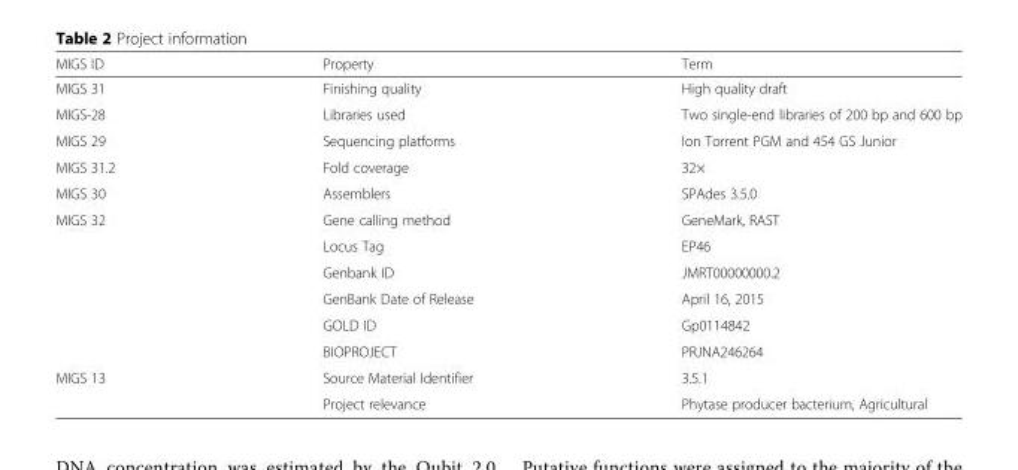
<table><thead><tr><td>MIGS ID</td><td>Property</td><td>Term</td></tr></thead><tbody><tr><td>MIGS 31</td><td>Finishing quality</td><td>High quality draft</td></tr><tr><td>MIGS-28</td><td>Libraries used</td><td>Two single-end libraries of 200 bp and 600 bp</td></tr><tr><td>MIGS 29</td><td>Sequencing platforms</td><td>Ion Torrent PGM and 454 GS Junior</td></tr><tr><td>MIGS 31.2</td><td>Fold coverage</td><td>32×</td></tr><tr><td>MIGS 30</td><td>Assemblers</td><td>SPAdes 3.5.0</td></tr><tr><td rowspan="6">MIGS 32</td><td>Gene calling method</td><td>GeneMark, RAST</td></tr><tr><td>Locus Tag</td><td>EP46</td></tr><tr><td>Genbank ID</td><td>JMRT00000000.2</td></tr><tr><td>GenBank Date of Release</td><td>April 16, 2015</td></tr><tr><td>GOLD ID</td><td>Gp0114842</td></tr><tr><td>BIOPROJECT</td><td>PRJNA246264</td></tr><tr><td rowspan="2">MIGS 13</td><td>Source Material Identifier</td><td>3.5.1</td></tr><tr><td>Project relevance</td><td>Phytase producer bacterium, Agricultural</td></tr></tbody></table>